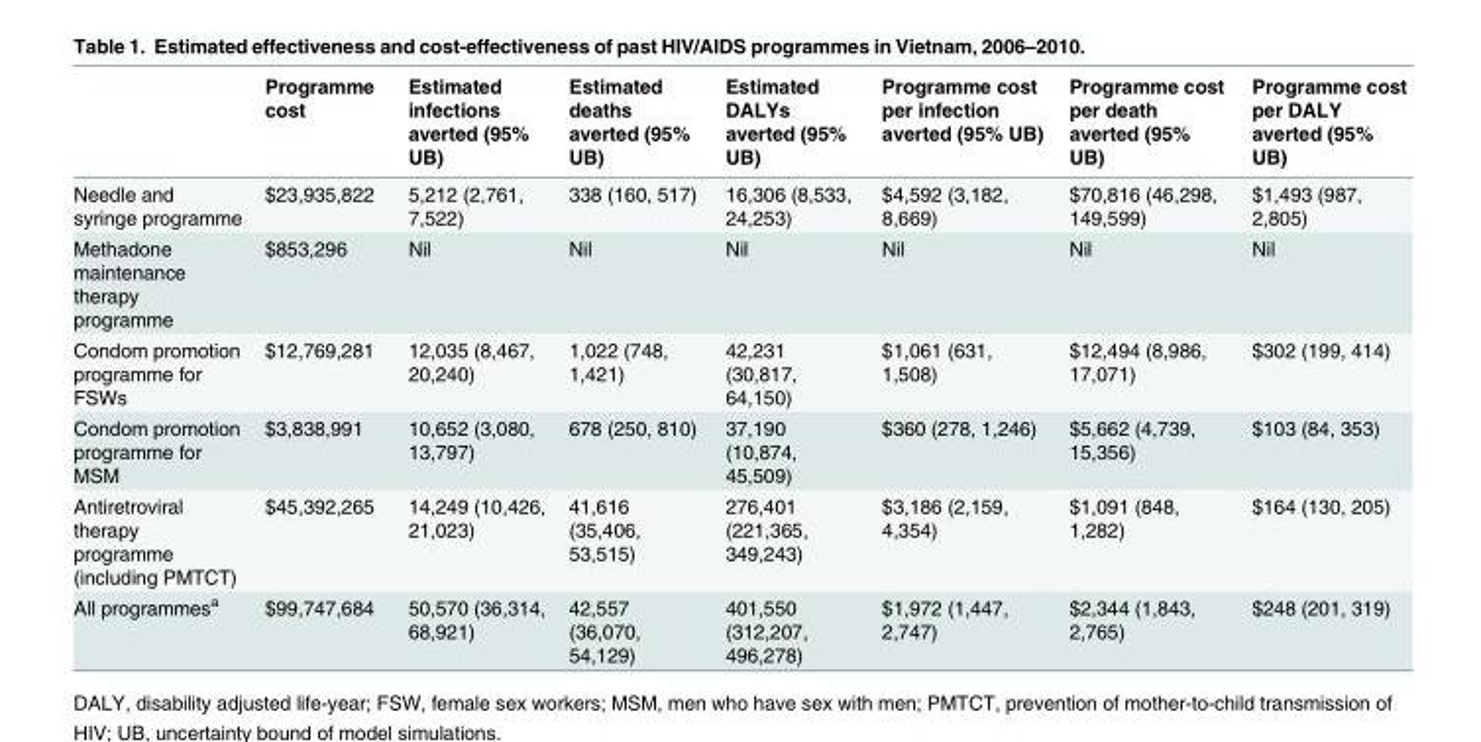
<table><thead><tr><td></td><td>Programme cost</td><td>Estimated infections averted (95% UB)</td><td>Estimated deaths averted (95% UB)</td><td>Estimated DALYs averted (95% UB)</td><td>Programme cost per infection averted (95% UB)</td><td>Programme cost per death averted (95% UB)</td><td>Programme cost per DALY averted (95% UB)</td></tr></thead><tbody><tr><td>Needle and syringe programme</td><td>$23,935,822</td><td>5,212 (2,761, 7,522)</td><td>338 (160, 517)</td><td>16,306 (8,533, 24,253)</td><td>$4,592 (3,182, 8,669)</td><td>$70,816 (46,298, 149,599)</td><td>$1,493 (987, 2,805)</td></tr><tr><td>Methadone maintenance therapy programme</td><td>$853,296</td><td>Nil</td><td>Nil</td><td>Nil</td><td>Nil</td><td>Nil</td><td>Nil</td></tr><tr><td>Condom promotion programme for FSWs</td><td>$12,769,281</td><td>12,035 (8,467, 20,240)</td><td>1,022 (748, 1,421)</td><td>42,231 (30,817, 64,150)</td><td>$1,061 (631, 1,508)</td><td>$12,494 (8,986, 17,071)</td><td>$302 (199, 414)</td></tr><tr><td>Condom promotion programme for MSM</td><td>$3,838,991</td><td>10,652 (3,080, 13,797)</td><td>678 (250, 810)</td><td>37,190 (10,874, 45,509)</td><td>$360 (278, 1,246)</td><td>$5,662 (4,739, 15,356)</td><td>$103 (84, 353)</td></tr><tr><td>Antiretroviral therapy programme (including PMTCT)</td><td>$45,392,265</td><td>14,249 (10,426, 21,023)</td><td>41,616 (35,406, 53,515)</td><td>276,401 (221,365, 349,243)</td><td>$3,186 (2,159, 4,354)</td><td>$1,091 (848, 1,282)</td><td>$164 (130, 205)</td></tr><tr><td>All programmes<sup>a</sup></td><td>$99,747,684</td><td>50,570 (36,314, 68,921)</td><td>42,557 (36,070, 54,129)</td><td>401,550 (312,207, 496,278)</td><td>$1,972 (1,447, 2,747)</td><td>$2,344 (1,843, 2,765)</td><td>$248 (201, 319)</td></tr></tbody></table>